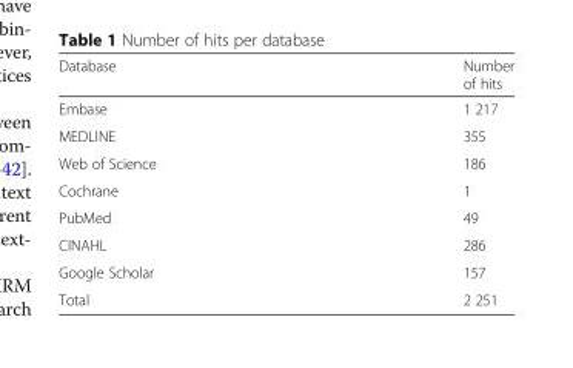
<table><thead><tr><td>Database</td><td>Number of hits</td></tr></thead><tbody><tr><td>Embase</td><td>1 217</td></tr><tr><td>MEDLINE</td><td>355</td></tr><tr><td>Web of Science</td><td>186</td></tr><tr><td>Cochrane</td><td>1</td></tr><tr><td>PubMed</td><td>49</td></tr><tr><td>CINAHL</td><td>286</td></tr><tr><td>Google Scholar</td><td>157</td></tr><tr><td>Total</td><td>2 251</td></tr></tbody></table>